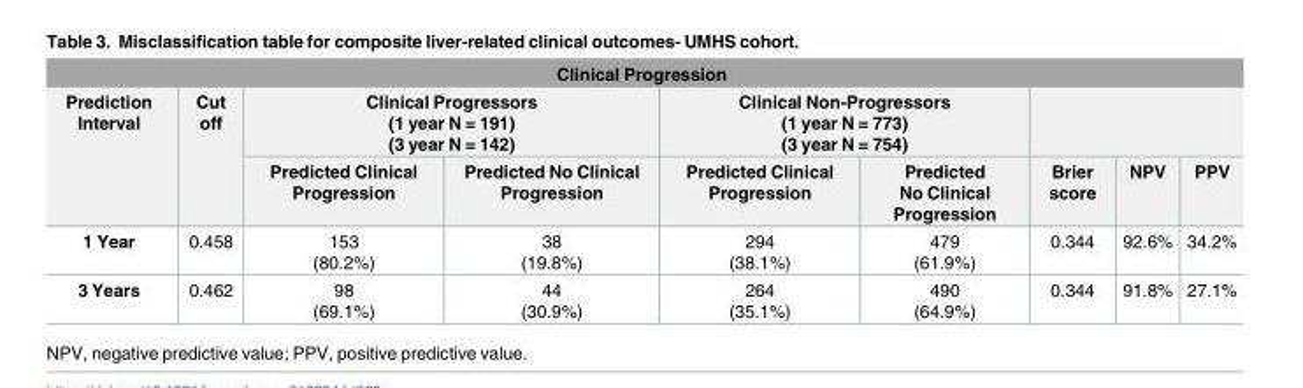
<table><thead><tr><td colspan="9">Clinical Progression</td></tr><tr><td rowspan="2">Prediction Interval</td><td rowspan="2">Cut off</td><td colspan="2">Clinical Progressors (1 year N = 191) (3 year N = 142)</td><td colspan="2">Clinical Non-Progressors (1 year N = 773) (3 year N = 754)</td><td rowspan="2">Brier score</td><td rowspan="2">NPV</td><td rowspan="2">PPV</td></tr><tr><td>Predicted Clinical Progression</td><td>Predicted No Clinical Progression</td><td>Predicted Clinical Progression</td><td>Predicted No Clinical Progression</td></tr></thead><tbody><tr><td>1 Year</td><td>0.458</td><td>153 (80.2%)</td><td>38 (19.8%)</td><td>294 (38.1%)</td><td>479 (61.9%)</td><td>0.344</td><td>92.6%</td><td>34.2%</td></tr><tr><td>3 Years</td><td>0.462</td><td>98 (69.1%)</td><td>44 (30.9%)</td><td>264 (35.1%)</td><td>490 (64.9%)</td><td>0.344</td><td>91.8%</td><td>27.1%</td></tr></tbody></table>